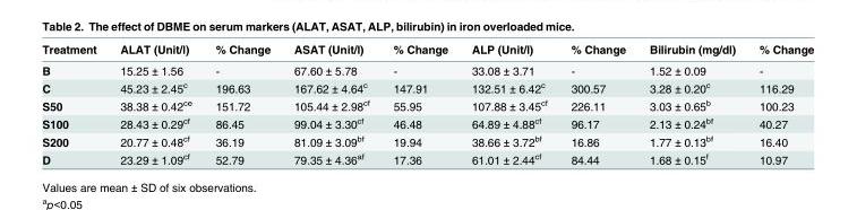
<table><thead><tr><td>Treatment</td><td>ALAT (Unit/l)</td><td>% Change</td><td>ASAT (Unit/l)</td><td>% Change</td><td>ALP (Unit/l)</td><td>% Change</td><td>Bilirubin (mg/dl)</td><td>% Change</td></tr></thead><tbody><tr><td>B</td><td>15.25 ± 1.56</td><td>-</td><td>67.60 ± 5.78</td><td>-</td><td>33.08 ± 3.71</td><td>-</td><td>1.52 ± 0.09</td><td>-</td></tr><tr><td>C</td><td>45.23 ± 2.45<sup>c</sup></td><td>196.63</td><td>167.62 ± 4.64<sup>c</sup></td><td>147.91</td><td>132.51 ± 6.42<sup>c</sup></td><td>300.57</td><td>3.28 ± 0.20<sup>c</sup></td><td>116.29</td></tr><tr><td>S50</td><td>38.38 ± 0.42<sup>ce</sup></td><td>151.72</td><td>105.44 ± 2.98<sup>cf</sup></td><td>55.95</td><td>107.88 ± 3.45<sup>cf</sup></td><td>226.11</td><td>3.03 ± 0.65<sup>b</sup></td><td>100.23</td></tr><tr><td>S100</td><td>28.43 ± 0.29<sup>cf</sup></td><td>86.45</td><td>99.04 ± 3.30<sup>cf</sup></td><td>46.48</td><td>64.89 ± 4.88<sup>cf</sup></td><td>96.17</td><td>2.13 ± 0.24<sup>bf</sup></td><td>40.27</td></tr><tr><td>S200</td><td>20.77 ± 0.48<sup>cf</sup></td><td>36.19</td><td>81.09 ± 3.09<sup>bf</sup></td><td>19.94</td><td>38.66 ± 3.72<sup>bf</sup></td><td>16.86</td><td>1.77 ± 0.13<sup>bf</sup></td><td>16.40</td></tr><tr><td>D</td><td>23.29 ± 1.09<sup>cf</sup></td><td>52.79</td><td>79.35 ± 4.36<sup>af</sup></td><td>17.36</td><td>61.01 ± 2.44<sup>cf</sup></td><td>84.44</td><td>1.68 ± 0.15<sup>f</sup></td><td>10.97</td></tr></tbody></table>